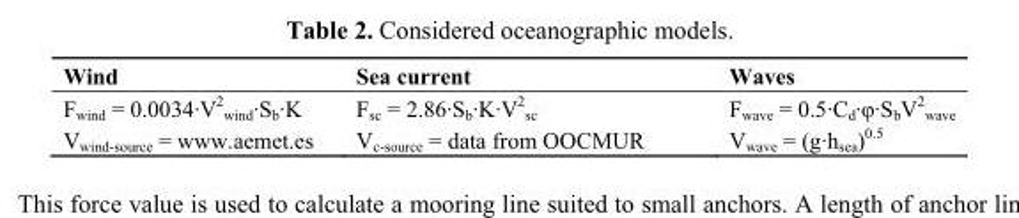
<table><thead><tr><td>Wind</td><td>Sea current</td><td>Waves</td></tr></thead><tbody><tr><td>F<sub>wind</sub> = 0.0034·V<sup>2</sup> <sub>wind</sub>·S<sub>b</sub>·K</td><td>F<sub>sc</sub> = 2.86·S<sub>b</sub>·K·V<sup>2</sup> <sub>sc</sub></td><td>F<sub>wave</sub> = 0.5·C<sub>d</sub>·φ·S<sub>b</sub>V<sup>2</sup> <sub>wave</sub></td></tr><tr><td>V<sub>wind-source</sub> = www.aemet.es</td><td>V<sub>c-source</sub> = data from OOCMUR</td><td>V<sub>wave</sub> = (g·h<sub>sea</sub>)<sup>0.5</sup></td></tr></tbody></table>